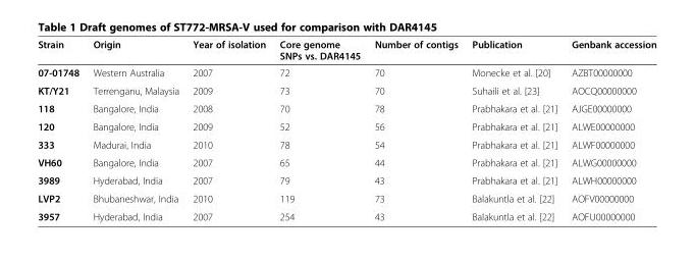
<table><thead><tr><td>Strain</td><td>Origin</td><td>Year of isolation</td><td>Core genome SNPs vs. DAR4145</td><td>Number of contigs</td><td>Publication</td><td>Genbank accession</td></tr></thead><tbody><tr><td>07-01748</td><td>Western Australia</td><td>2007</td><td>72</td><td>70</td><td>Monecke et al. [20]</td><td>AZBT00000000</td></tr><tr><td>KT/Y21</td><td>Terrenganu, Malaysia</td><td>2009</td><td>73</td><td>70</td><td>Suhaili et al. [23]</td><td>AOCQ00000000</td></tr><tr><td>118</td><td>Bangalore, India</td><td>2008</td><td>70</td><td>78</td><td>Prabhakara et al. [21]</td><td>AJGE00000000</td></tr><tr><td>120</td><td>Bangalore, India</td><td>2009</td><td>52</td><td>56</td><td>Prabhakara et al. [21]</td><td>ALWE00000000</td></tr><tr><td>333</td><td>Madurai, India</td><td>2010</td><td>78</td><td>54</td><td>Prabhakara et al. [21]</td><td>ALWF00000000</td></tr><tr><td>VH60</td><td>Bangalore, India</td><td>2007</td><td>65</td><td>44</td><td>Prabhakara et al. [21]</td><td>ALWG00000000</td></tr><tr><td>3989</td><td>Hyderabad, India</td><td>2007</td><td>79</td><td>43</td><td>Prabhakara et al. [21]</td><td>ALWH00000000</td></tr><tr><td>LVP2</td><td>Bhubaneshwar, India</td><td>2010</td><td>119</td><td>73</td><td>Balakuntla et al. [22]</td><td>AOFV00000000</td></tr><tr><td>3957</td><td>Hyderabad, India</td><td>2007</td><td>254</td><td>43</td><td>Balakuntla et al. [22]</td><td>AOFU00000000</td></tr></tbody></table>